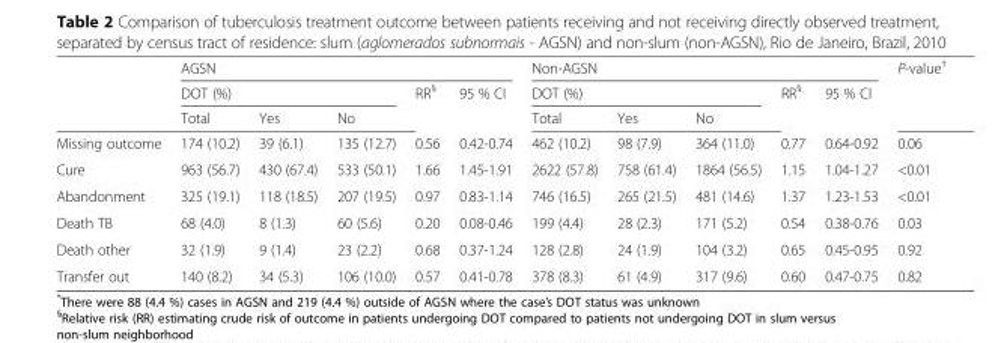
<table><thead><tr><td rowspan="3"></td><td colspan="5">AGSN</td><td colspan="5">Non-AGSN</td><td rowspan="3">P-value<sup>†</sup></td></tr><tr><td colspan="3">DOT (%)</td><td rowspan="2">RR<sup>§</sup></td><td rowspan="2">95 % CI</td><td colspan="3">DOT (%)</td><td rowspan="2">RR<sup>§</sup></td><td rowspan="2">95 % CI</td></tr><tr><td>Total</td><td>Yes</td><td>No</td><td>Total</td><td>Yes</td><td>No</td></tr></thead><tbody><tr><td>Missing outcome</td><td>174 (10.2)</td><td>39 (6.1)</td><td>135 (12.7)</td><td>0.56</td><td>0.42-0.74</td><td>462 (10.2)</td><td>98 (7.9)</td><td>364 (11.0)</td><td>0.77</td><td>0.64-0.92</td><td>0.06</td></tr><tr><td>Cure</td><td>963 (56.7)</td><td>430 (67.4)</td><td>533 (50.1)</td><td>1.66</td><td>1.45-1.91</td><td>2622 (57.8)</td><td>758 (61.4)</td><td>1864 (56.5)</td><td>1.15</td><td>1.04-1.27</td><td>&lt;0.01</td></tr><tr><td>Abandonment</td><td>325 (19.1)</td><td>118 (18.5)</td><td>207 (19.5)</td><td>0.97</td><td>0.83-1.14</td><td>746 (16.5)</td><td>265 (21.5)</td><td>481 (14.6)</td><td>1.37</td><td>1.23-1.53</td><td>&lt;0.01</td></tr><tr><td>Death TB</td><td>68 (4.0)</td><td>8 (1.3)</td><td>60 (5.6)</td><td>0.20</td><td>0.08-0.46</td><td>199 (4.4)</td><td>28 (2.3)</td><td>171 (5.2)</td><td>0.54</td><td>0.38-0.76</td><td>0.03</td></tr><tr><td>Death other</td><td>32 (1.9)</td><td>9 (1.4)</td><td>23 (2.2)</td><td>0.68</td><td>0.37-1.24</td><td>128 (2.8)</td><td>24 (1.9)</td><td>104 (3.2)</td><td>0.65</td><td>0.45-0.95</td><td>0.92</td></tr><tr><td>Transfer out</td><td>140 (8.2)</td><td>34 (5.3)</td><td>106 (10.0)</td><td>0.57</td><td>0.41-0.78</td><td>378 (8.3)</td><td>61 (4.9)</td><td>317 (9.6)</td><td>0.60</td><td>0.47-0.75</td><td>0.82</td></tr></tbody></table>